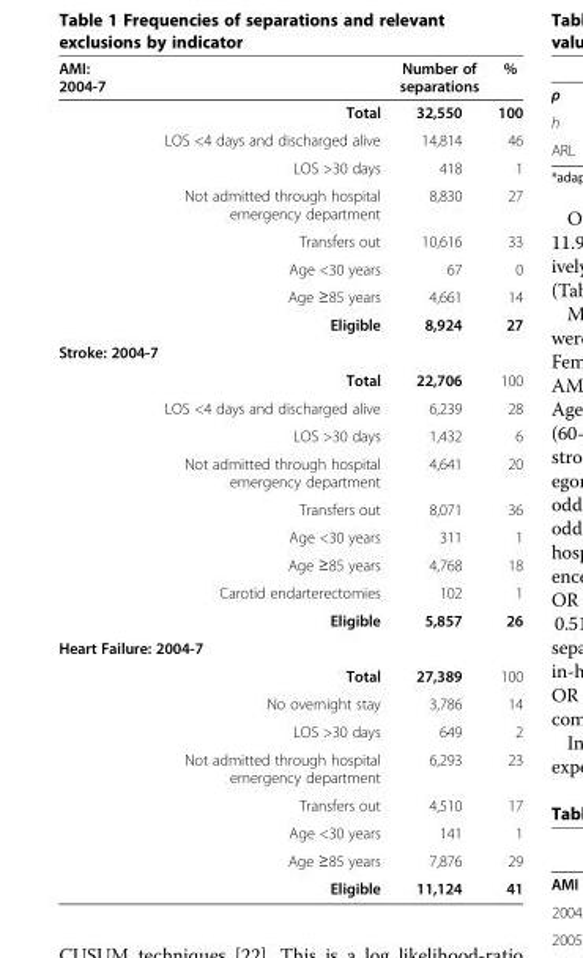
<table><thead><tr><td>AMI: 2004-7</td><td></td><td>Number of separations</td><td>%</td></tr></thead><tbody><tr><td></td><td>Total</td><td>32,550</td><td>100</td></tr><tr><td></td><td>LOS &lt;4 days and discharged alive</td><td>14,814</td><td>46</td></tr><tr><td></td><td>LOS &gt;30 days</td><td>418</td><td>1</td></tr><tr><td></td><td>Not admitted through hospital emergency department</td><td>8,830</td><td>27</td></tr><tr><td></td><td>Transfers out</td><td>10,616</td><td>33</td></tr><tr><td></td><td>Age &lt;30 years</td><td>67</td><td>0</td></tr><tr><td></td><td>Age ≥85 years</td><td>4,661</td><td>14</td></tr><tr><td></td><td>Eligible</td><td>8,924</td><td>27</td></tr><tr><td colspan="4">Stroke: 2004-7</td></tr><tr><td></td><td>Total</td><td>22,706</td><td>100</td></tr><tr><td></td><td>LOS &lt;4 days and discharged alive</td><td>6,239</td><td>28</td></tr><tr><td></td><td>LOS &gt;30 days</td><td>1,432</td><td>6</td></tr><tr><td></td><td>Not admitted through hospital emergency department</td><td>4,641</td><td>20</td></tr><tr><td></td><td>Transfers out</td><td>8,071</td><td>36</td></tr><tr><td></td><td>Age &lt;30 years</td><td>311</td><td>1</td></tr><tr><td></td><td>Age ≥85 years</td><td>4,768</td><td>18</td></tr><tr><td></td><td>Carotid endarterectomies</td><td>102</td><td>1</td></tr><tr><td></td><td>Eligible</td><td>5,857</td><td>26</td></tr><tr><td colspan="4">Heart Failure: 2004-7</td></tr><tr><td></td><td>Total</td><td>27,389</td><td>100</td></tr><tr><td></td><td>No overnight stay</td><td>3,786</td><td>14</td></tr><tr><td></td><td>LOS &gt;30 days</td><td>649</td><td>2</td></tr><tr><td></td><td>Not admitted through hospital emergency department</td><td>6,293</td><td>23</td></tr><tr><td></td><td>Transfers out</td><td>4,510</td><td>17</td></tr><tr><td></td><td>Age &lt;30 years</td><td>141</td><td>1</td></tr><tr><td></td><td>Age ≥85 years</td><td>7,876</td><td>29</td></tr><tr><td></td><td>Eligible</td><td>11,124</td><td>41</td></tr></tbody></table>